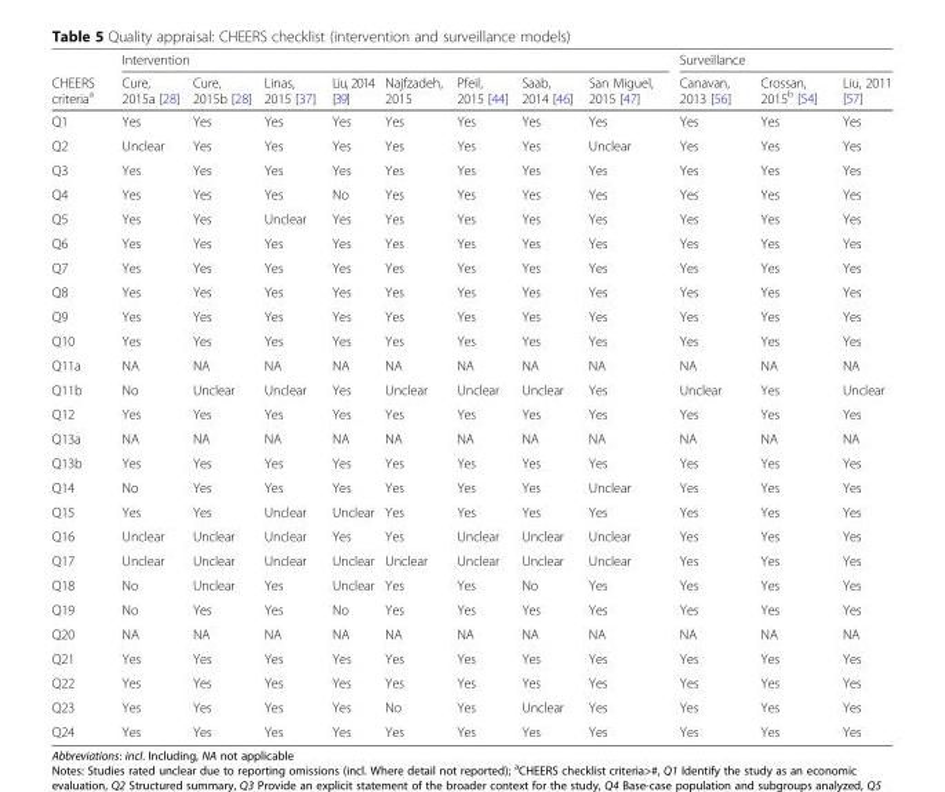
<table><thead><tr><td rowspan="2">CHEERS criteria<sup>a</sup></td><td colspan="8">Intervention</td><td colspan="3">Surveillance</td></tr><tr><td>Cure, 2015a [28]</td><td>Cure, 2015b [28]</td><td>Linas, 2015 [37]</td><td>Liu, 2014 [39]</td><td>Najfzadeh, 2015</td><td>Pfeil, 2015 [44]</td><td>Saab, 2014 [46]</td><td>San Miguel, 2015 [47]</td><td>Canavan, 2013 [56]</td><td>Crossan, 2015<sup>b</sup> [54]</td><td>Liu, 2011 [57]</td></tr></thead><tbody><tr><td>Q1</td><td>Yes</td><td>Yes</td><td>Yes</td><td>Yes</td><td>Yes</td><td>Yes</td><td>Yes</td><td>Yes</td><td>Yes</td><td>Yes</td><td>Yes</td></tr><tr><td>Q2</td><td>Unclear</td><td>Yes</td><td>Yes</td><td>Yes</td><td>Yes</td><td>Yes</td><td>Yes</td><td>Unclear</td><td>Yes</td><td>Yes</td><td>Yes</td></tr><tr><td>Q3</td><td>Yes</td><td>Yes</td><td>Yes</td><td>Yes</td><td>Yes</td><td>Yes</td><td>Yes</td><td>Yes</td><td>Yes</td><td>Yes</td><td>Yes</td></tr><tr><td>Q4</td><td>Yes</td><td>Yes</td><td>Yes</td><td>No</td><td>Yes</td><td>Yes</td><td>Yes</td><td>Yes</td><td>Yes</td><td>Yes</td><td>Yes</td></tr><tr><td>Q5</td><td>Yes</td><td>Yes</td><td>Unclear</td><td>Yes</td><td>Yes</td><td>Yes</td><td>Yes</td><td>Yes</td><td>Yes</td><td>Yes</td><td>Yes</td></tr><tr><td>Q6</td><td>Yes</td><td>Yes</td><td>Yes</td><td>Yes</td><td>Yes</td><td>Yes</td><td>Yes</td><td>Yes</td><td>Yes</td><td>Yes</td><td>Yes</td></tr><tr><td>Q7</td><td>Yes</td><td>Yes</td><td>Yes</td><td>Yes</td><td>Yes</td><td>Yes</td><td>Yes</td><td>Yes</td><td>Yes</td><td>Yes</td><td>Yes</td></tr><tr><td>Q8</td><td>Yes</td><td>Yes</td><td>Yes</td><td>Yes</td><td>Yes</td><td>Yes</td><td>Yes</td><td>Yes</td><td>Yes</td><td>Yes</td><td>Yes</td></tr><tr><td>Q9</td><td>Yes</td><td>Yes</td><td>Yes</td><td>Yes</td><td>Yes</td><td>Yes</td><td>Yes</td><td>Yes</td><td>Yes</td><td>Yes</td><td>Yes</td></tr><tr><td>Q10</td><td>Yes</td><td>Yes</td><td>Yes</td><td>Yes</td><td>Yes</td><td>Yes</td><td>Yes</td><td>Yes</td><td>Yes</td><td>Yes</td><td>Yes</td></tr><tr><td>Q11a</td><td>NA</td><td>NA</td><td>NA</td><td>NA</td><td>NA</td><td>NA</td><td>NA</td><td>NA</td><td>NA</td><td>NA</td><td>NA</td></tr><tr><td>Q11b</td><td>No</td><td>Unclear</td><td>Unclear</td><td>Yes</td><td>Unclear</td><td>Unclear</td><td>Unclear</td><td>Yes</td><td>Unclear</td><td>Yes</td><td>Unclear</td></tr><tr><td>Q12</td><td>Yes</td><td>Yes</td><td>Yes</td><td>Yes</td><td>Yes</td><td>Yes</td><td>Yes</td><td>Yes</td><td>Yes</td><td>Yes</td><td>Yes</td></tr><tr><td>Q13a</td><td>NA</td><td>NA</td><td>NA</td><td>NA</td><td>NA</td><td>NA</td><td>NA</td><td>NA</td><td>NA</td><td>NA</td><td>NA</td></tr><tr><td>Q13b</td><td>Yes</td><td>Yes</td><td>Yes</td><td>Yes</td><td>Yes</td><td>Yes</td><td>Yes</td><td>Yes</td><td>Yes</td><td>Yes</td><td>Yes</td></tr><tr><td>Q14</td><td>No</td><td>Yes</td><td>Yes</td><td>Yes</td><td>Yes</td><td>Yes</td><td>Yes</td><td>Unclear</td><td>Yes</td><td>Yes</td><td>Yes</td></tr><tr><td>Q15</td><td>Yes</td><td>Yes</td><td>Unclear</td><td>Unclear</td><td>Yes</td><td>Yes</td><td>Yes</td><td>Yes</td><td>Yes</td><td>Yes</td><td>Yes</td></tr><tr><td>Q16</td><td>Unclear</td><td>Unclear</td><td>Unclear</td><td>Yes</td><td>Yes</td><td>Unclear</td><td>Unclear</td><td>Unclear</td><td>Yes</td><td>Yes</td><td>Yes</td></tr><tr><td>Q17</td><td>Unclear</td><td>Unclear</td><td>Unclear</td><td>Unclear</td><td>Unclear</td><td>Unclear</td><td>Unclear</td><td>Unclear</td><td>Yes</td><td>Yes</td><td>Yes</td></tr><tr><td>Q18</td><td>No</td><td>Unclear</td><td>Yes</td><td>Unclear</td><td>Yes</td><td>Yes</td><td>No</td><td>Yes</td><td>Yes</td><td>Yes</td><td>Yes</td></tr><tr><td>Q19</td><td>No</td><td>Yes</td><td>Yes</td><td>No</td><td>Yes</td><td>Yes</td><td>Yes</td><td>Yes</td><td>Yes</td><td>Yes</td><td>Yes</td></tr><tr><td>Q20</td><td>NA</td><td>NA</td><td>NA</td><td>NA</td><td>NA</td><td>NA</td><td>NA</td><td>NA</td><td>NA</td><td>NA</td><td>NA</td></tr><tr><td>Q21</td><td>Yes</td><td>Yes</td><td>Yes</td><td>Yes</td><td>Yes</td><td>Yes</td><td>Yes</td><td>Yes</td><td>Yes</td><td>Yes</td><td>Yes</td></tr><tr><td>Q22</td><td>Yes</td><td>Yes</td><td>Yes</td><td>Yes</td><td>Yes</td><td>Yes</td><td>Yes</td><td>Yes</td><td>Yes</td><td>Yes</td><td>Yes</td></tr><tr><td>Q23</td><td>Yes</td><td>Yes</td><td>Yes</td><td>Yes</td><td>No</td><td>Yes</td><td>Unclear</td><td>Yes</td><td>Yes</td><td>Yes</td><td>Yes</td></tr><tr><td>Q24</td><td>Yes</td><td>Yes</td><td>Yes</td><td>Yes</td><td>Yes</td><td>Yes</td><td>Yes</td><td>Yes</td><td>Yes</td><td>Yes</td><td>Yes</td></tr></tbody></table>